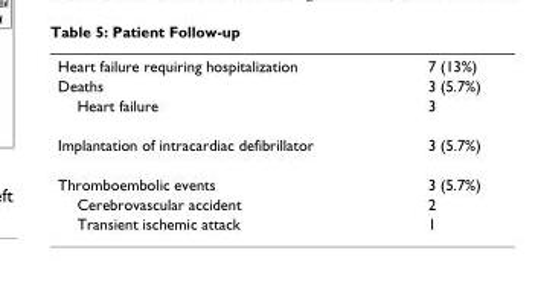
<table><tbody><tr><td>Heart failure requiring hospitalization</td><td>7 (13%)</td></tr><tr><td>Deaths</td><td>3 (5.7%)</td></tr><tr><td>Heart failure</td><td>3</td></tr><tr><td>Implantation of intracardiac defibrillator</td><td>3 (5.7%)</td></tr><tr><td>Thromboembolic events</td><td>3 (5.7%)</td></tr><tr><td>Cerebrovascular accident</td><td>2</td></tr><tr><td>Transient ischemic attack</td><td>1</td></tr></tbody></table>